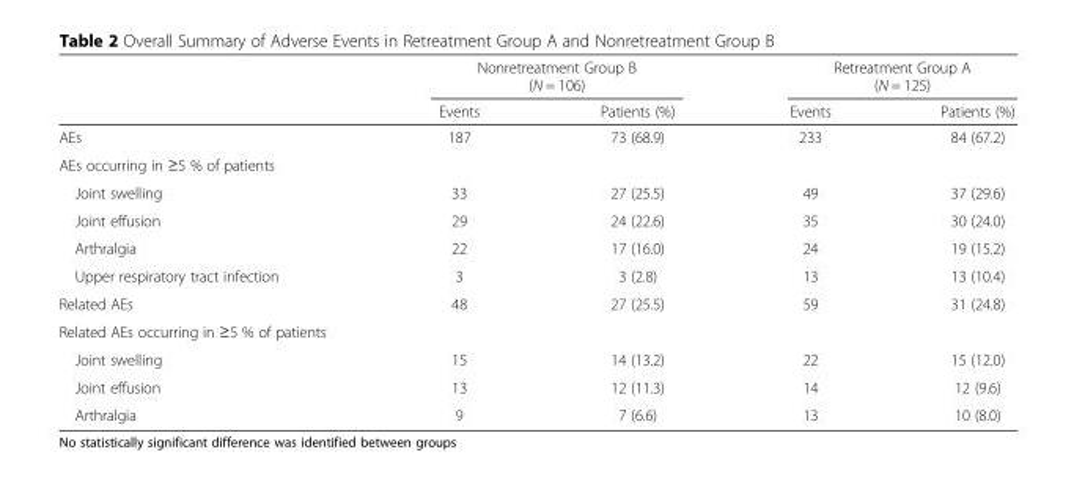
<table><thead><tr><td rowspan="3"></td><td rowspan="2" colspan="2">Nonretreatment Group B (N = 106)</td><td rowspan="2" colspan="2">Retreatment Group A (N = 125)</td></tr><tr></tr><tr><td>Events</td><td>Patients (%)</td><td>Events</td><td>Patients (%)</td></tr></thead><tbody><tr><td>AEs</td><td>187</td><td>73 (68.9)</td><td>233</td><td>84 (67.2)</td></tr><tr><td colspan="5">AEs occurring in ≥5 % of patients</td></tr><tr><td>Joint swelling</td><td>33</td><td>27 (25.5)</td><td>49</td><td>37 (29.6)</td></tr><tr><td>Joint effusion</td><td>29</td><td>24 (22.6)</td><td>35</td><td>30 (24.0)</td></tr><tr><td>Arthralgia</td><td>22</td><td>17 (16.0)</td><td>24</td><td>19 (15.2)</td></tr><tr><td>Upper respiratory tract infection</td><td>3</td><td>3 (2.8)</td><td>13</td><td>13 (10.4)</td></tr><tr><td>Related AEs</td><td>48</td><td>27 (25.5)</td><td>59</td><td>31 (24.8)</td></tr><tr><td colspan="5">Related AEs occurring in ≥5 % of patients</td></tr><tr><td>Joint swelling</td><td>15</td><td>14 (13.2)</td><td>22</td><td>15 (12.0)</td></tr><tr><td>Joint effusion</td><td>13</td><td>12 (11.3)</td><td>14</td><td>12 (9.6)</td></tr><tr><td>Arthralgia</td><td>9</td><td>7 (6.6)</td><td>13</td><td>10 (8.0)</td></tr></tbody></table>